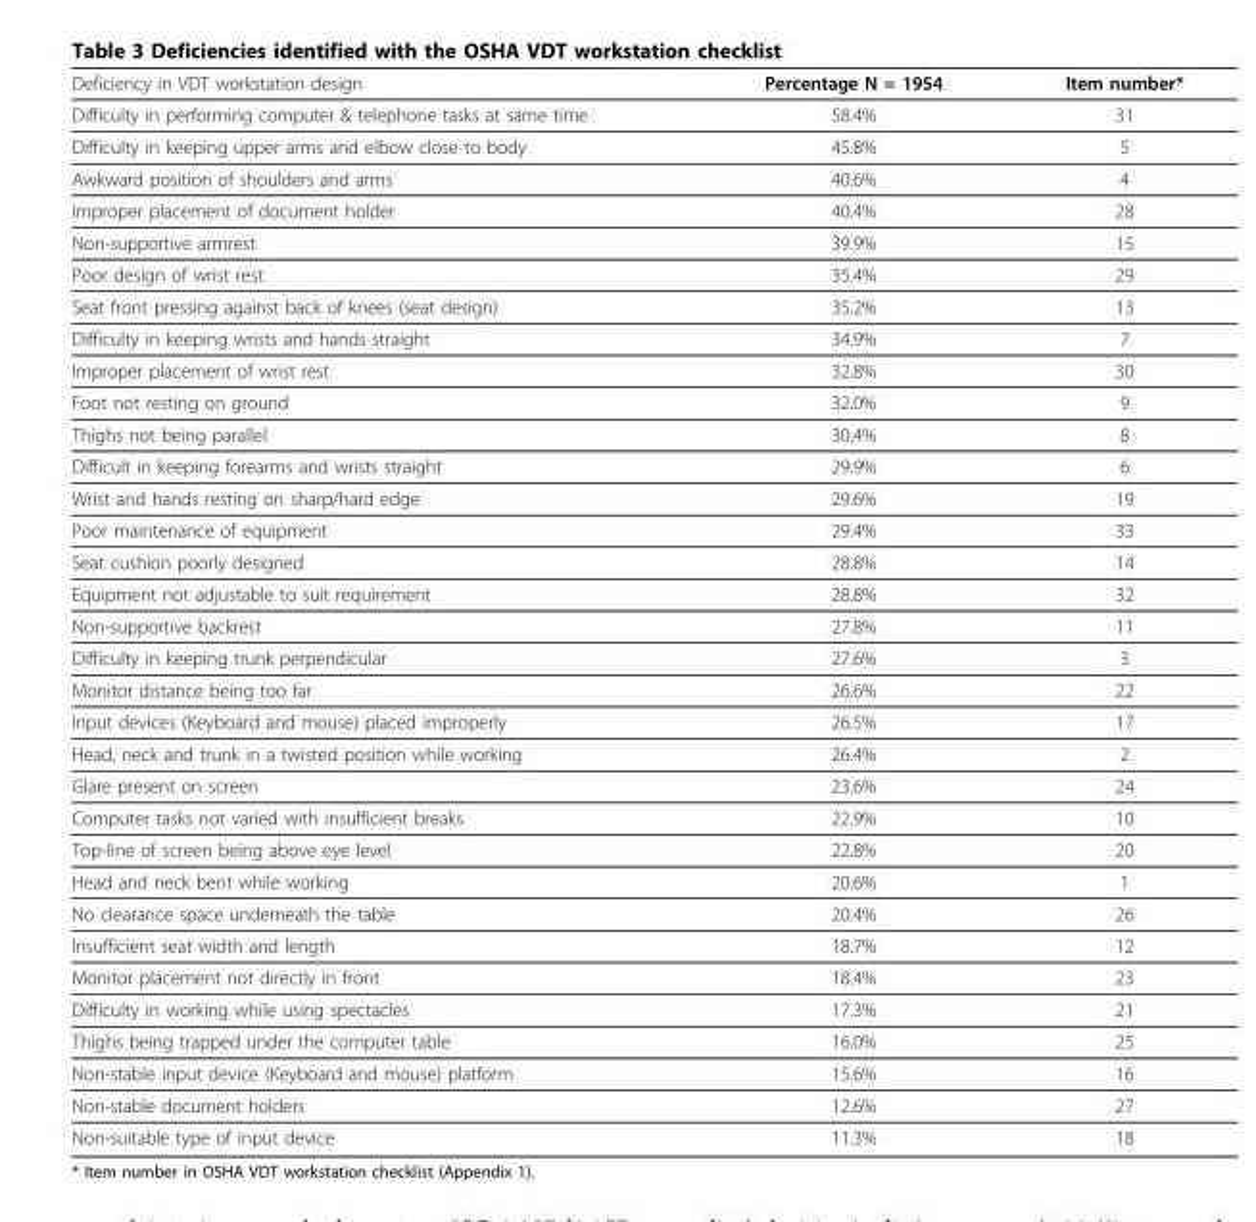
<table><thead><tr><td>Deficiency in VDT workstation design</td><td>Percentage N = 1954</td><td>Item number*</td></tr></thead><tbody><tr><td>Difficulty in performing computer &amp; telephone tasks at same time</td><td>58.4%</td><td>31</td></tr><tr><td>Difficulty in keeping upper arms and elbow close to body</td><td>45.8%</td><td>5</td></tr><tr><td>Awkward position of shoulders and arms</td><td>40.6%</td><td>4</td></tr><tr><td>Improper placement of document holder</td><td>40.4%</td><td>28</td></tr><tr><td>Non-supportive armrest</td><td>39.9%</td><td>15</td></tr><tr><td>Poor design of wrist rest</td><td>35.4%</td><td>29</td></tr><tr><td>Seat front pressing against back of knees (seat design)</td><td>35.2%</td><td>13</td></tr><tr><td>Difficulty in keeping wrists and hands straight</td><td>34.9%</td><td>7</td></tr><tr><td>Improper placement of wrist rest</td><td>32.8%</td><td>30</td></tr><tr><td>Foot not resting on ground</td><td>32.0%</td><td>9</td></tr><tr><td>Thighs not being parallel</td><td>30.4%</td><td>8</td></tr><tr><td>Difficult in keeping forearms and wrists straight</td><td>29.9%</td><td>6</td></tr><tr><td>Wrist and hands resting on sharp/hard edge</td><td>29.6%</td><td>19</td></tr><tr><td>Poor maintenance of equipment</td><td>29.4%</td><td>33</td></tr><tr><td>Seat cushion poorly designed</td><td>28.8%</td><td>14</td></tr><tr><td>Equipment not adjustable to suit requirement</td><td>28.8%</td><td>32</td></tr><tr><td>Non-supportive backrest</td><td>27.8%</td><td>11</td></tr><tr><td>Difficulty in keeping trunk perpendicular</td><td>27.6%</td><td>3</td></tr><tr><td>Monitor distance being too far</td><td>26.6%</td><td>22</td></tr><tr><td>Input devices (Keyboard and mouse) placed improperly</td><td>26.5%</td><td>17</td></tr><tr><td>Head, neck and trunk in a twisted position while working</td><td>26.4%</td><td>2</td></tr><tr><td>Glare present on screen</td><td>23.6%</td><td>24</td></tr><tr><td>Computer tasks not varied with insufficient breaks</td><td>22.9%</td><td>10</td></tr><tr><td>Top-line of screen being above eye level</td><td>22.8%</td><td>20</td></tr><tr><td>Head and neck bent while working</td><td>20.6%</td><td>1</td></tr><tr><td>No clearance space underneath the table</td><td>20.4%</td><td>26</td></tr><tr><td>Insufficient seat width and length</td><td>18.7%</td><td>12</td></tr><tr><td>Monitor placement not directly in front</td><td>18.4%</td><td>23</td></tr><tr><td>Difficulty in working while using spectacles</td><td>17.3%</td><td>21</td></tr><tr><td>Thighs being trapped under the computer table</td><td>16.0%</td><td>25</td></tr><tr><td>Non-stable input device (Keyboard and mouse) platform</td><td>15.6%</td><td>16</td></tr><tr><td>Non-stable document holders</td><td>12.6%</td><td>27</td></tr><tr><td>Non-suitable type of input device</td><td>11.3%</td><td>18</td></tr></tbody></table>